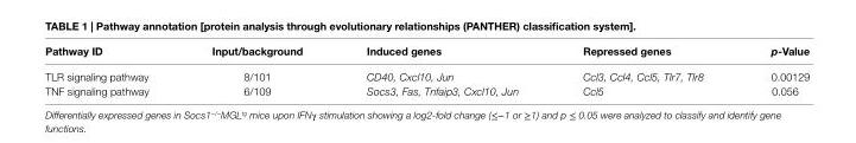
<table><thead><tr><td>Pathway iD</td><td>input/background</td><td>induced genes</td><td>repressed genes</td><td>p-Value</td></tr></thead><tbody><tr><td>TLR signaling pathway</td><td>8/101</td><td>CD40, Cxcl10, Jun</td><td>Ccl3, Ccl4, Ccl5, Tlr7, Tlr8</td><td>0.00129</td></tr><tr><td>TNF signaling pathway</td><td>6/109</td><td>Socs3, Fas, Tnfaip3, Cxcl10, Jun</td><td>Ccl5</td><td>0.056</td></tr></tbody></table>